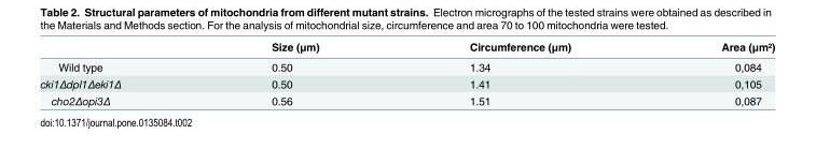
<table><thead><tr><td></td><td>Size (μm)</td><td>Circumference (μm)</td><td>Area (μm²)</td></tr></thead><tbody><tr><td>Wild type</td><td>0.50</td><td>1.34</td><td>0,084</td></tr><tr><td>cki1Δdpl1Δeki1Δ</td><td>0.50</td><td>1.41</td><td>0,105</td></tr><tr><td>cho2Δopi3Δ</td><td>0.56</td><td>1.51</td><td>0,087</td></tr></tbody></table>